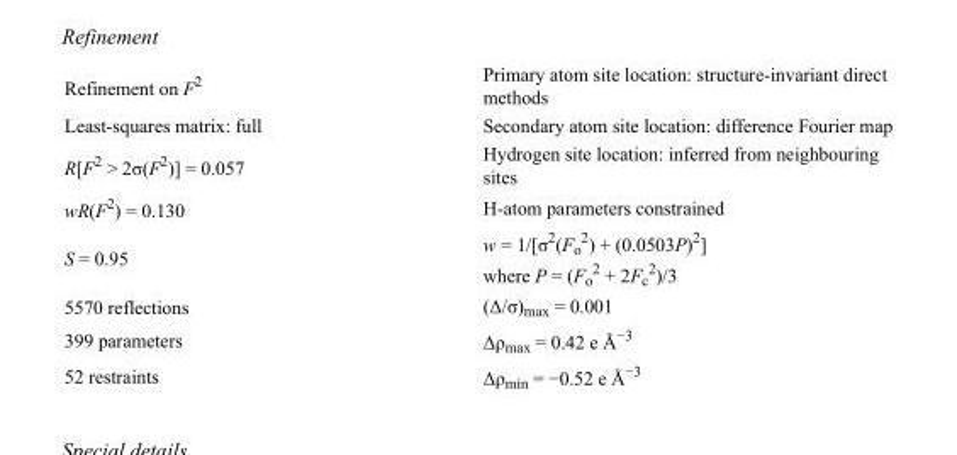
<table><tbody><tr><td>Refinement on F<sup>2</sup></td><td>Primary atom site location: structure-invariant direct methods</td></tr><tr><td>Least-squares matrix: full</td><td>Secondary atom site location: difference Fourier map</td></tr><tr><td>R[F<sup>2</sup> &gt; 2σ(F<sup>2</sup>)] = 0.057</td><td>Hydrogen site location: inferred from neighbouring sites</td></tr><tr><td>wR(F<sup>2</sup>) = 0.130</td><td>H-atom parameters constrained</td></tr><tr><td>S = 0.95</td><td>w = 1/[σ<sup>2</sup>(F<sub>o</sub> <sup>2</sup>) + (0.0503P)<sup>2</sup>] where P = (F<sub>o</sub> <sup>2</sup> + 2F<sub>c</sub> <sup>2</sup>)/3</td></tr><tr><td>5570 reflections</td><td>(Δ/σ)<sub>max</sub> = 0.001</td></tr><tr><td>399 parameters</td><td>Δρ<sub>max</sub> = 0.42 e Å<sup>−3</sup></td></tr><tr><td>52 restraints</td><td>Δρmin = −0.52 e Å−3</td></tr></tbody></table>